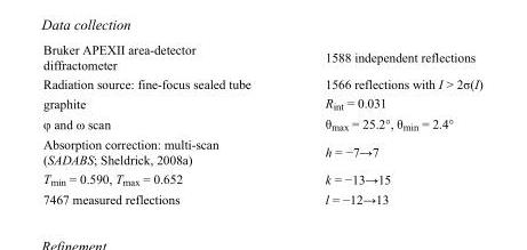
<table><tbody><tr><td>Bruker APEXII area-detector diffractometer</td><td>1588 independent reflections</td></tr><tr><td>Radiation source: fine-focus sealed tube</td><td>1566 reflections with I &gt; 2σ(I)</td></tr><tr><td>graphite</td><td>R<sub>int</sub> = 0.031</td></tr><tr><td>φ and ω scan</td><td>θ<sub>max</sub> = 25.2°, θ<sub>min</sub> = 2.4°</td></tr><tr><td>Absorption correction: multi-scan (SADABS; Sheldrick, 2008a)</td><td>h = −7→7</td></tr><tr><td>T<sub>min</sub> = 0.590, T<sub>max</sub> = 0.652</td><td>k = −13→15</td></tr><tr><td>7467 measured reflections</td><td>l = −12→13</td></tr></tbody></table>